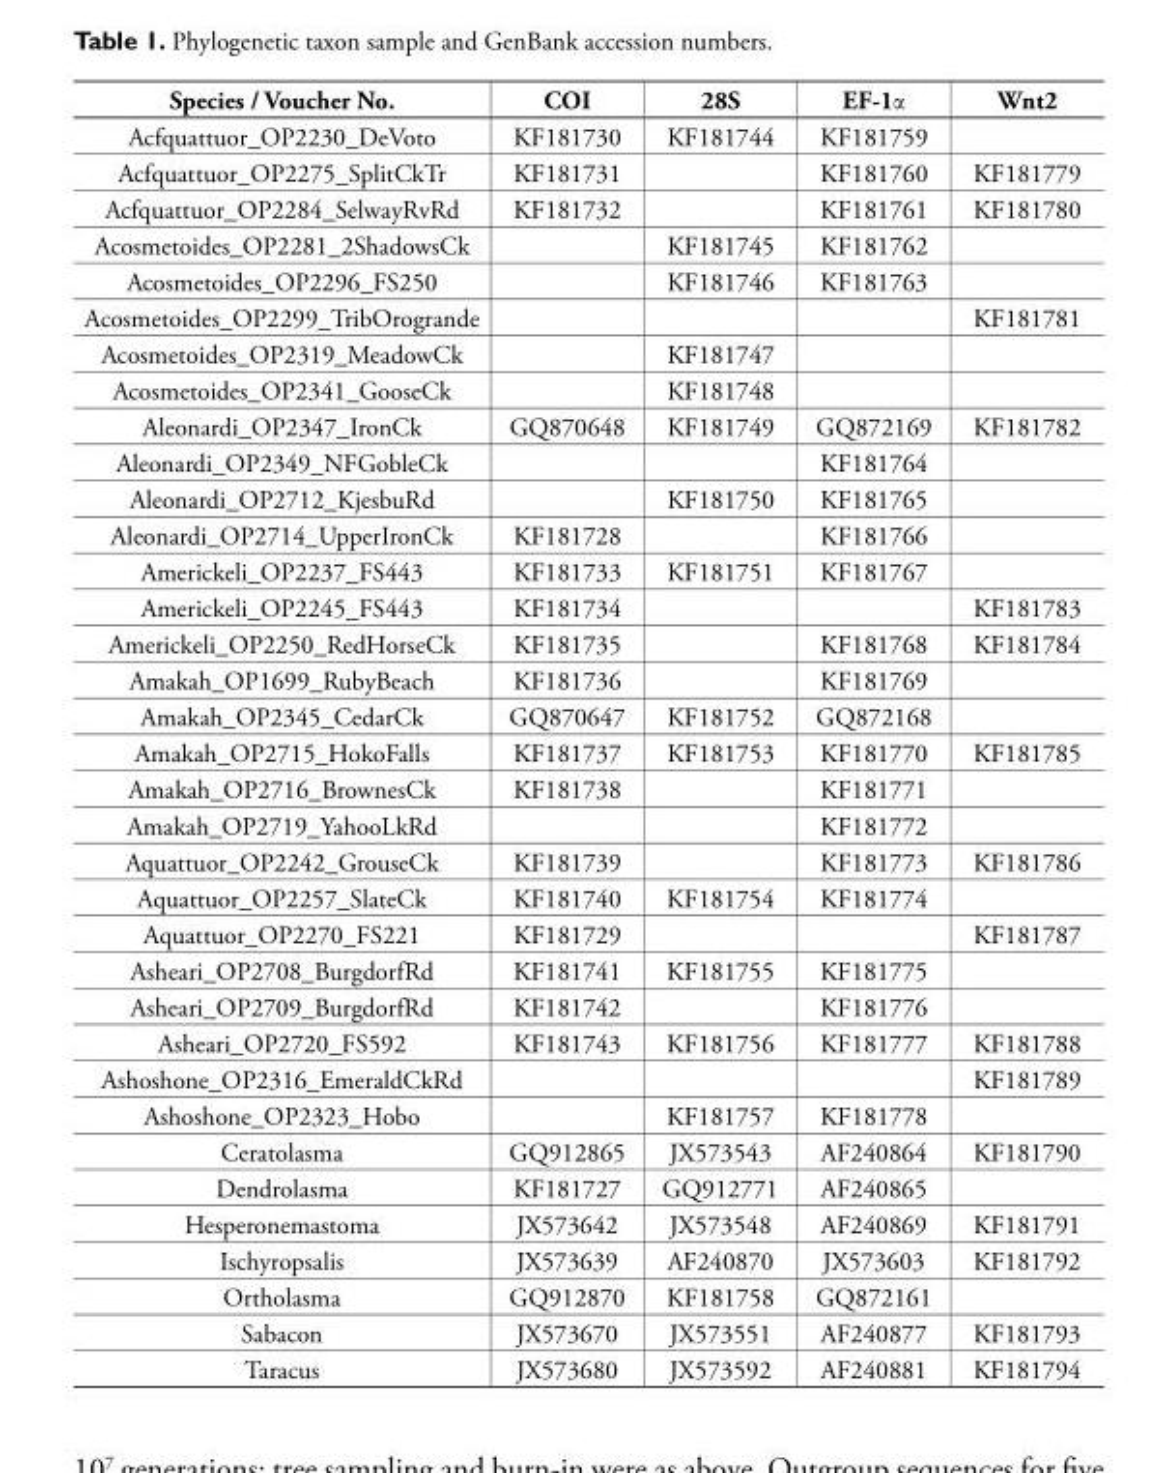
<table><thead><tr><td>Species / Voucher No.</td><td>COI</td><td>28S</td><td>EF-1α</td><td>Wnt2</td></tr></thead><tbody><tr><td>Acfquattuor_OP2230_DeVoto</td><td>KF181730</td><td>KF181744</td><td>KF181759</td><td></td></tr><tr><td>Acfquattuor_OP2275_SplitCkTr</td><td>KF181731</td><td></td><td>KF181760</td><td>KF181779</td></tr><tr><td>Acfquattuor_OP2284_SelwayRvRd</td><td>KF181732</td><td></td><td>KF181761</td><td>KF181780</td></tr><tr><td>Acosmetoides_OP2281_2ShadowsCk</td><td></td><td>KF181745</td><td>KF181762</td><td></td></tr><tr><td>Acosmetoides_OP2296_FS250</td><td></td><td>KF181746</td><td>KF181763</td><td></td></tr><tr><td>Acosmetoides_OP2299_TribOrogrande</td><td></td><td></td><td></td><td>KF181781</td></tr><tr><td>Acosmetoides_OP2319_MeadowCk</td><td></td><td>KF181747</td><td></td><td></td></tr><tr><td>Acosmetoides_OP2341_GooseCk</td><td></td><td>KF181748</td><td></td><td></td></tr><tr><td>Aleonardi_OP2347_IronCk</td><td>GQ870648</td><td>KF181749</td><td>GQ872169</td><td>KF181782</td></tr><tr><td>Aleonardi_OP2349_NFGobleCk</td><td></td><td></td><td>KF181764</td><td></td></tr><tr><td>Aleonardi_OP2712_KjesbuRd</td><td></td><td>KF181750</td><td>KF181765</td><td></td></tr><tr><td>Aleonardi_OP2714_UpperIronCk</td><td>KF181728</td><td></td><td>KF181766</td><td></td></tr><tr><td>Americkeli_OP2237_FS443</td><td>KF181733</td><td>KF181751</td><td>KF181767</td><td></td></tr><tr><td>Americkeli_OP2245_FS443</td><td>KF181734</td><td></td><td></td><td>KF181783</td></tr><tr><td>Americkeli_OP2250_RedHorseCk</td><td>KF181735</td><td></td><td>KF181768</td><td>KF181784</td></tr><tr><td>Amakah_OP1699_RubyBeach</td><td>KF181736</td><td></td><td>KF181769</td><td></td></tr><tr><td>Amakah_OP2345_CedarCk</td><td>GQ870647</td><td>KF181752</td><td>GQ872168</td><td></td></tr><tr><td>Amakah_OP2715_HokoFalls</td><td>KF181737</td><td>KF181753</td><td>KF181770</td><td>KF181785</td></tr><tr><td>Amakah_OP2716_BrownesCk</td><td>KF181738</td><td></td><td>KF181771</td><td></td></tr><tr><td>Amakah_OP2719_YahooLkRd</td><td></td><td></td><td>KF181772</td><td></td></tr><tr><td>Aquattuor_OP2242_GrouseCk</td><td>KF181739</td><td></td><td>KF181773</td><td>KF181786</td></tr><tr><td>Aquattuor_OP2257_SlateCk</td><td>KF181740</td><td>KF181754</td><td>KF181774</td><td></td></tr><tr><td>Aquattuor_OP2270_FS221</td><td>KF181729</td><td></td><td></td><td>KF181787</td></tr><tr><td>Asheari_OP2708_BurgdorfRd</td><td>KF181741</td><td>KF181755</td><td>KF181775</td><td></td></tr><tr><td>Asheari_OP2709_BurgdorfRd</td><td>KF181742</td><td></td><td>KF181776</td><td></td></tr><tr><td>Asheari_OP2720_FS592</td><td>KF181743</td><td>KF181756</td><td>KF181777</td><td>KF181788</td></tr><tr><td>Ashoshone_OP2316_EmeraldCkRd</td><td></td><td></td><td></td><td>KF181789</td></tr><tr><td>Ashoshone_OP2323_Hobo</td><td></td><td>KF181757</td><td>KF181778</td><td></td></tr><tr><td>Ceratolasma</td><td>GQ912865</td><td>JX573543</td><td>AF240864</td><td>KF181790</td></tr><tr><td>Dendrolasma</td><td>KF181727</td><td>GQ912771</td><td>AF240865</td><td></td></tr><tr><td>Hesperonemastoma</td><td>JX573642</td><td>JX573548</td><td>AF240869</td><td>KF181791</td></tr><tr><td>Ischyropsalis</td><td>JX573639</td><td>AF240870</td><td>JX573603</td><td>KF181792</td></tr><tr><td>Ortholasma</td><td>GQ912870</td><td>KF181758</td><td>GQ872161</td><td></td></tr><tr><td>Sabacon</td><td>JX573670</td><td>JX573551</td><td>AF240877</td><td>KF181793</td></tr><tr><td>Taracus</td><td>JX573680</td><td>JX573592</td><td>AF240881</td><td>KF181794</td></tr></tbody></table>